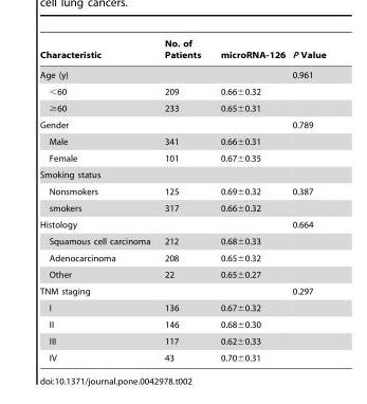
<table><thead><tr><td>Characteristic</td><td>No. of Patients</td><td>microRNA-126</td><td>P Value</td></tr></thead><tbody><tr><td>Age (y)</td><td></td><td></td><td>0.961</td></tr><tr><td>&lt;60</td><td>209</td><td>0.66±0.32</td><td></td></tr><tr><td>≥60</td><td>233</td><td>0.65±0.31</td><td></td></tr><tr><td>Gender</td><td></td><td></td><td>0.789</td></tr><tr><td>Male</td><td>341</td><td>0.66±0.31</td><td></td></tr><tr><td>Female</td><td>101</td><td>0.67±0.35</td><td></td></tr><tr><td colspan="4">Smoking status</td></tr><tr><td>Nonsmokers</td><td>125</td><td>0.69±0.32</td><td>0.387</td></tr><tr><td>smokers</td><td>317</td><td>0.66±0.32</td><td></td></tr><tr><td>Histology</td><td></td><td></td><td>0.664</td></tr><tr><td>Squamous cell carcinoma</td><td>212</td><td>0.68±0.33</td><td></td></tr><tr><td>Adenocarcinoma</td><td>208</td><td>0.65±0.32</td><td></td></tr><tr><td>Other</td><td>22</td><td>0.65±0.27</td><td></td></tr><tr><td>TNM staging</td><td></td><td></td><td>0.297</td></tr><tr><td>I</td><td>136</td><td>0.67±0.32</td><td></td></tr><tr><td>II</td><td>146</td><td>0.68±0.30</td><td></td></tr><tr><td>III</td><td>117</td><td>0.62±0.33</td><td></td></tr><tr><td>IV</td><td>43</td><td>0.70±0.31</td><td></td></tr></tbody></table>